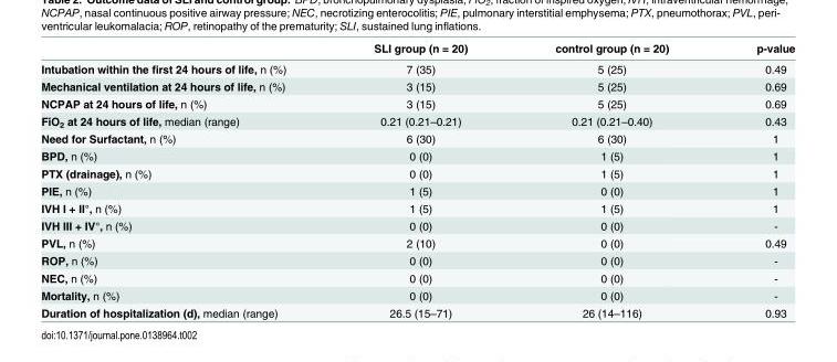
<table><thead><tr><td></td><td>SLI group (n = 20)</td><td>control group (n = 20)</td><td>p-value</td></tr></thead><tbody><tr><td>Intubation within the first 24 hours of life, n (%)</td><td>7 (35)</td><td>5 (25)</td><td>0.49</td></tr><tr><td>Mechanical ventilation at 24 hours of life, n (%)</td><td>3 (15)</td><td>5 (25)</td><td>0.69</td></tr><tr><td>NCPAP at 24 hours of life, n (%)</td><td>3 (15)</td><td>5 (25)</td><td>0.69</td></tr><tr><td>FiO<sub>2</sub> at 24 hours of life, median (range)</td><td>0.21 (0.21–0.21)</td><td>0.21 (0.21–0.40)</td><td>0.43</td></tr><tr><td>Need for Surfactant, n (%)</td><td>6 (30)</td><td>6 (30)</td><td>1</td></tr><tr><td>BPD, n (%)</td><td>0 (0)</td><td>1 (5)</td><td>1</td></tr><tr><td>PTX (drainage), n (%)</td><td>0 (0)</td><td>1 (5)</td><td>1</td></tr><tr><td>PIE, n (%)</td><td>1 (5)</td><td>0 (0)</td><td>1</td></tr><tr><td>IVH I + II°, n (%)</td><td>1 (5)</td><td>1 (5)</td><td>1</td></tr><tr><td>IVH III + IV°, n (%)</td><td>0 (0)</td><td>0 (0)</td><td>-</td></tr><tr><td>PVL, n (%)</td><td>2 (10)</td><td>0 (0)</td><td>0.49</td></tr><tr><td>ROP, n (%)</td><td>0 (0)</td><td>0 (0)</td><td>-</td></tr><tr><td>NEC, n (%)</td><td>0 (0)</td><td>0 (0)</td><td>-</td></tr><tr><td>Mortality, n (%)</td><td>0 (0)</td><td>0 (0)</td><td>-</td></tr><tr><td>Duration of hospitalization (d), median (range)</td><td>26.5 (15–71)</td><td>26 (14–116)</td><td>0.93</td></tr></tbody></table>